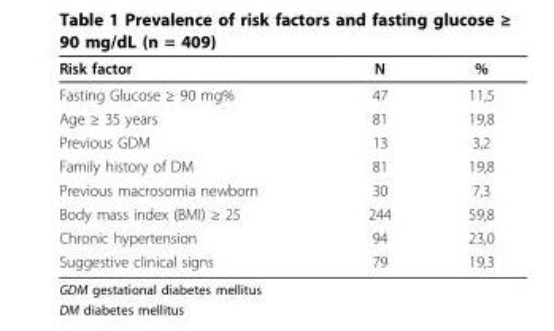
<table><thead><tr><td>Risk factor</td><td>N</td><td>%</td></tr></thead><tbody><tr><td>Fasting Glucose ≥ 90 mg%</td><td>47</td><td>11,5</td></tr><tr><td>Age ≥ 35 years</td><td>81</td><td>19,8</td></tr><tr><td>Previous GDM</td><td>13</td><td>3,2</td></tr><tr><td>Family history of DM</td><td>81</td><td>19,8</td></tr><tr><td>Previous macrosomia newborn</td><td>30</td><td>7,3</td></tr><tr><td>Body mass index (BMI) ≥ 25</td><td>244</td><td>59,8</td></tr><tr><td>Chronic hypertension</td><td>94</td><td>23,0</td></tr><tr><td>Suggestive clinical signs</td><td>79</td><td>19,3</td></tr></tbody></table>